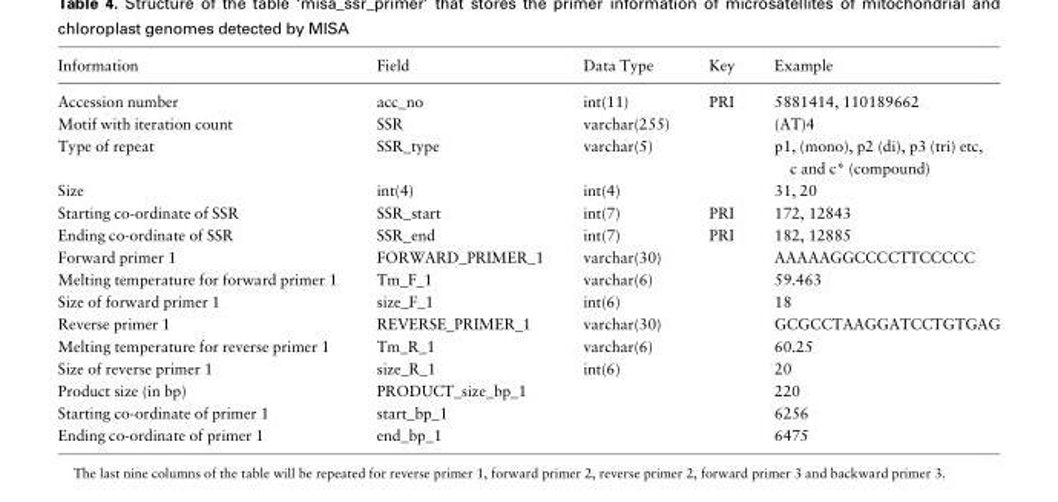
<table><thead><tr><td>Information</td><td>Field</td><td>Data Type</td><td>Key</td><td>Example</td></tr></thead><tbody><tr><td>Accession number</td><td>acc_no</td><td>int(11)</td><td>PRI</td><td>5881414, 110189662</td></tr><tr><td>Motif with iteration count</td><td>SSR</td><td>varchar(255)</td><td></td><td>(AT)4</td></tr><tr><td>Type of repeat</td><td>SSR_type</td><td>varchar(5)</td><td></td><td>p1, (mono), p2 (di), p3 (tri) etc, c and c* (compound)</td></tr><tr><td>Size</td><td>int(4)</td><td>int(4)</td><td></td><td>31, 20</td></tr><tr><td>Starting co-ordinate of SSR</td><td>SSR_start</td><td>int(7)</td><td>PRI</td><td>172, 12843</td></tr><tr><td>Ending co-ordinate of SSR</td><td>SSR_end</td><td>int(7)</td><td>PRI</td><td>182, 12885</td></tr><tr><td>Forward primer 1</td><td>FORWARD_PRIMER_1</td><td>varchar(30)</td><td></td><td>AAAAAGGCCCCTTCCCCC</td></tr><tr><td>Melting temperature for forward primer 1</td><td>Tm_F_1</td><td>varchar(6)</td><td></td><td>59.463</td></tr><tr><td>Size of forward primer 1</td><td>size_F_1</td><td>int(6)</td><td></td><td>18</td></tr><tr><td>Reverse primer 1</td><td>REVERSE_PRIMER_1</td><td>varchar(30)</td><td></td><td>GCGCCTAAGGATCCTGTGAG</td></tr><tr><td>Melting temperature for reverse primer 1</td><td>Tm_R_1</td><td>varchar(6)</td><td></td><td>60.25</td></tr><tr><td>Size of reverse primer 1</td><td>size_R_1</td><td>int(6)</td><td></td><td>20</td></tr><tr><td>Product size (in bp)</td><td>PRODUCT_size_bp_1</td><td></td><td></td><td>220</td></tr><tr><td>Starting co-ordinate of primer 1</td><td>start_bp_1</td><td></td><td></td><td>6256</td></tr><tr><td>Ending co-ordinate of primer 1</td><td>end_bp_1</td><td></td><td></td><td>6475</td></tr></tbody></table>